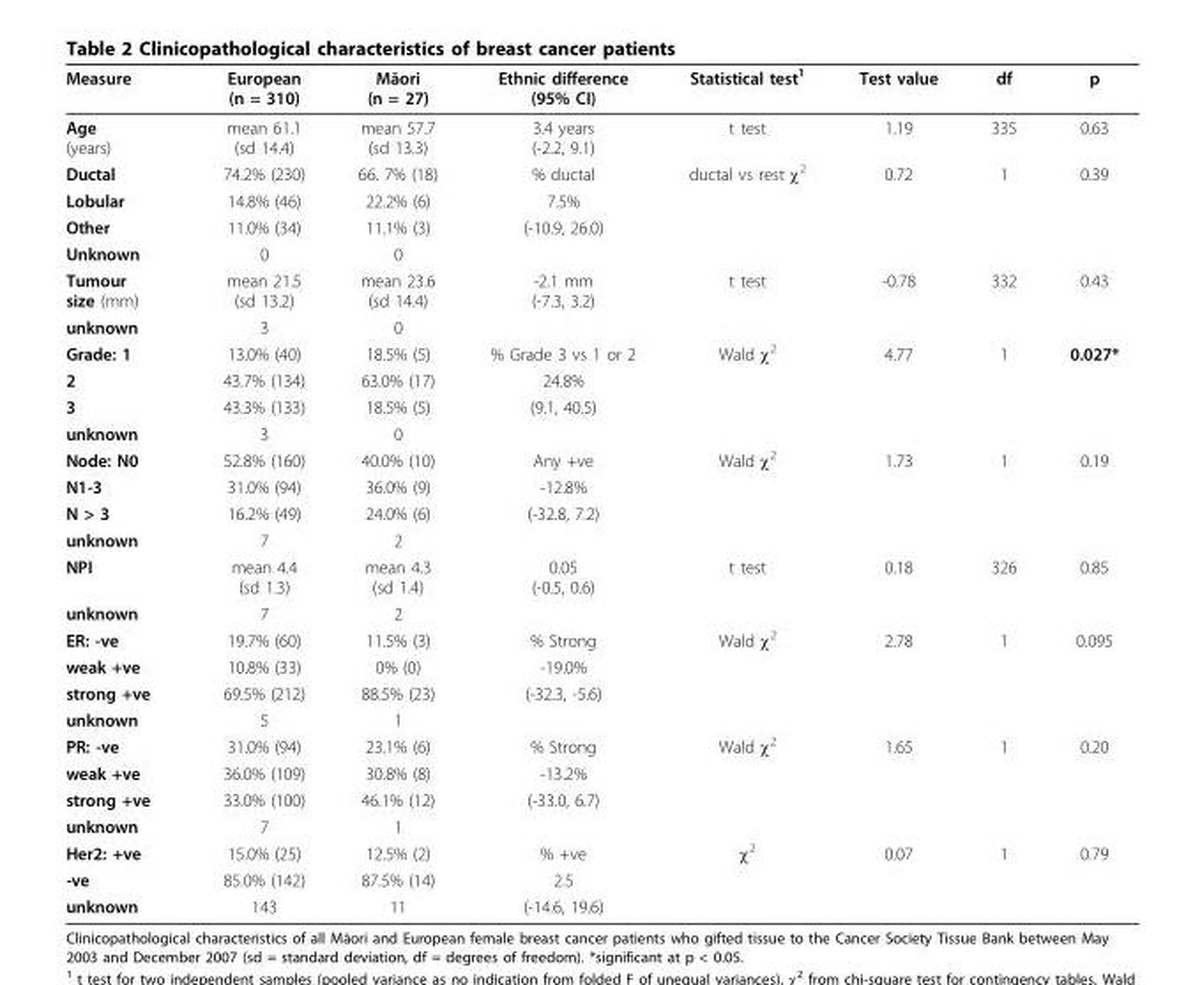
<table><thead><tr><td>Measure</td><td>European (n = 310)</td><td>Māori (n = 27)</td><td>Ethnic difference (95% CI)</td><td>Statistical test<sup>1</sup></td><td>Test value</td><td>df</td><td>p</td></tr></thead><tbody><tr><td>Age (years)</td><td>mean 61.1 (sd 14.4)</td><td>mean 57.7 (sd 13.3)</td><td>3.4 years (-2.2, 9.1)</td><td>t test</td><td>1.19</td><td>335</td><td>0.63</td></tr><tr><td>Ductal</td><td>74.2% (230)</td><td>66. 7% (18)</td><td>% ductal</td><td>ductal vs rest χ<sup>2</sup></td><td>0.72</td><td>1</td><td>0.39</td></tr><tr><td>Lobular</td><td>14.8% (46)</td><td>22.2% (6)</td><td>7.5%</td><td></td><td></td><td></td><td></td></tr><tr><td>Other</td><td>11.0% (34)</td><td>11.1% (3)</td><td>(-10.9, 26.0)</td><td></td><td></td><td></td><td></td></tr><tr><td>Unknown</td><td>0</td><td>0</td><td></td><td></td><td></td><td></td><td></td></tr><tr><td>Tumour size (mm)</td><td>mean 21.5 (sd 13.2)</td><td>mean 23.6 (sd 14.4)</td><td>-2.1 mm (-7.3, 3.2)</td><td>t test</td><td>-0.78</td><td>332</td><td>0.43</td></tr><tr><td>unknown</td><td>3</td><td>0</td><td></td><td></td><td></td><td></td><td></td></tr><tr><td>Grade: 1</td><td>13.0% (40)</td><td>18.5% (5)</td><td>% Grade 3 vs 1 or 2</td><td>Wald χ<sup>2</sup></td><td>4.77</td><td>1</td><td>0.027*</td></tr><tr><td>2</td><td>43.7% (134)</td><td>63.0% (17)</td><td>24.8%</td><td></td><td></td><td></td><td></td></tr><tr><td>3</td><td>43.3% (133)</td><td>18.5% (5)</td><td>(9.1, 40.5)</td><td></td><td></td><td></td><td></td></tr><tr><td>unknown</td><td>3</td><td>0</td><td></td><td></td><td></td><td></td><td></td></tr><tr><td>Node: N0</td><td>52.8% (160)</td><td>40.0% (10)</td><td>Any +ve</td><td>Wald χ<sup>2</sup></td><td>1.73</td><td>1</td><td>0.19</td></tr><tr><td>N1-3</td><td>31.0% (94)</td><td>36.0% (9)</td><td>-12.8%</td><td></td><td></td><td></td><td></td></tr><tr><td>N &gt; 3</td><td>16.2% (49)</td><td>24.0% (6)</td><td>(-32.8, 7.2)</td><td></td><td></td><td></td><td></td></tr><tr><td>unknown</td><td>7</td><td>2</td><td></td><td></td><td></td><td></td><td></td></tr><tr><td>NPI</td><td>mean 4.4 (sd 1.3)</td><td>mean 4.3 (sd 1.4)</td><td>0.05 (-0.5, 0.6)</td><td>t test</td><td>0.18</td><td>326</td><td>0.85</td></tr><tr><td>unknown</td><td>7</td><td>2</td><td></td><td></td><td></td><td></td><td></td></tr><tr><td>ER: -ve</td><td>19.7% (60)</td><td>11.5% (3)</td><td>% Strong</td><td>Wald χ<sup>2</sup></td><td>2.78</td><td>1</td><td>0.095</td></tr><tr><td>weak +ve</td><td>10.8% (33)</td><td>0% (0)</td><td>-19.0%</td><td></td><td></td><td></td><td></td></tr><tr><td>strong +ve</td><td>69.5% (212)</td><td>88.5% (23)</td><td>(-32.3, -5.6)</td><td></td><td></td><td></td><td></td></tr><tr><td>unknown</td><td>5</td><td>1</td><td></td><td></td><td></td><td></td><td></td></tr><tr><td>PR: -ve</td><td>31.0% (94)</td><td>23.1% (6)</td><td>% Strong</td><td>Wald χ<sup>2</sup></td><td>1.65</td><td>1</td><td>0.20</td></tr><tr><td>weak +ve</td><td>36.0% (109)</td><td>30.8% (8)</td><td>-13.2%</td><td></td><td></td><td></td><td></td></tr><tr><td>strong +ve</td><td>33.0% (100)</td><td>46.1% (12)</td><td>(-33.0, 6.7)</td><td></td><td></td><td></td><td></td></tr><tr><td>unknown</td><td>7</td><td>1</td><td></td><td></td><td></td><td></td><td></td></tr><tr><td>Her2: +ve</td><td>15.0% (25)</td><td>12.5% (2)</td><td>% +ve</td><td>χ<sup>2</sup></td><td>0.07</td><td>1</td><td>0.79</td></tr><tr><td>-ve</td><td>85.0% (142)</td><td>87.5% (14)</td><td>2.5</td><td></td><td></td><td></td><td></td></tr><tr><td>unknown</td><td>143</td><td>11</td><td>(-14.6, 19.6)</td><td></td><td></td><td></td><td></td></tr></tbody></table>